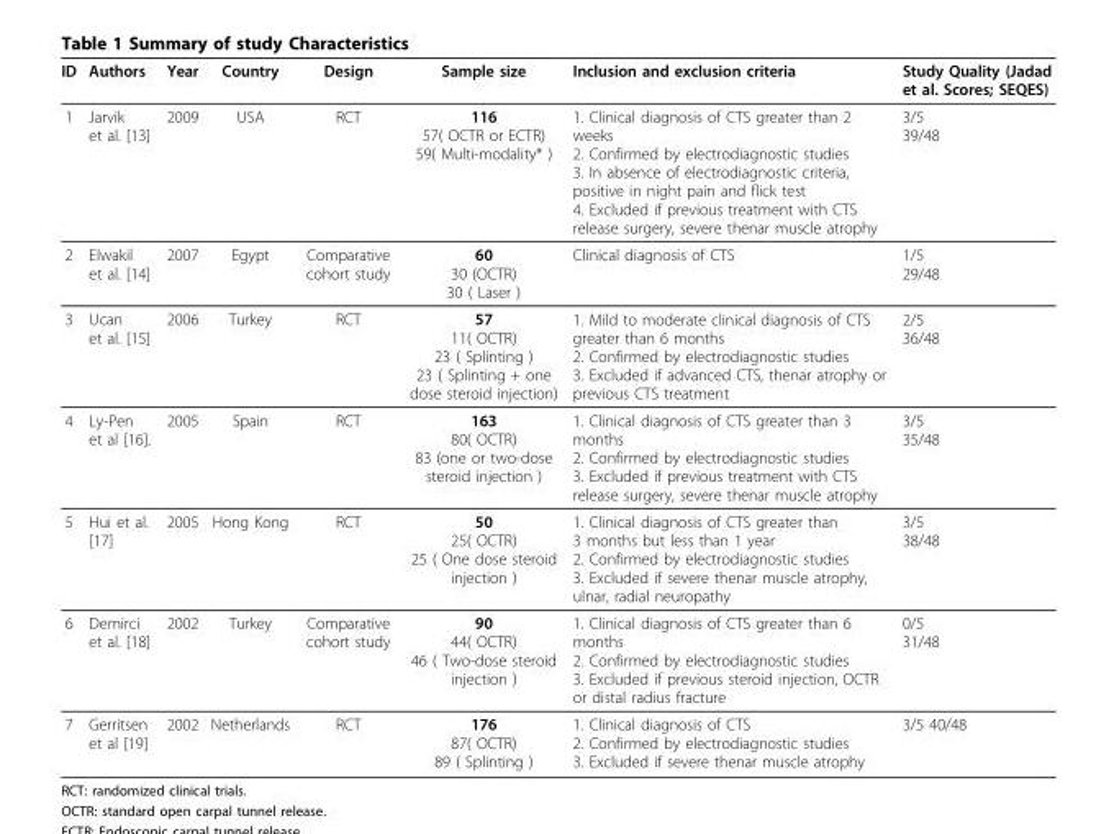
<table><thead><tr><td>ID</td><td>Authors</td><td>Year</td><td>Country</td><td>Design</td><td>Sample size</td><td>Inclusion and exclusion criteria</td><td>Study Quality (Jadad et al. Scores; SEQES)</td></tr></thead><tbody><tr><td>1</td><td>Jarvik et al. [13]</td><td>2009</td><td>USA</td><td>RCT</td><td>116 57( OCTR or ECTR) 59( Multi-modality* )</td><td>1. Clinical diagnosis of CTS greater than 2 weeks 2. Confirmed by electrodiagnostic studies 3. In absence of electrodiagnostic criteria, positive in night pain and flick test 4. Excluded if previous treatment with CTS release surgery, severe thenar muscle atrophy</td><td>3/5 39/48</td></tr><tr><td>2</td><td>Elwakil et al. [14]</td><td>2007</td><td>Egypt</td><td>Comparative cohort study</td><td>60 30 (OCTR) 30 ( Laser )</td><td>Clinical diagnosis of CTS</td><td>1/5 29/48</td></tr><tr><td>3</td><td>Ucan et al. [15]</td><td>2006</td><td>Turkey</td><td>RCT</td><td>57 11( OCTR) 23 ( Splinting ) 23 ( Splinting + one dose steroid injection)</td><td>1. Mild to moderate clinical diagnosis of CTS greater than 6 months 2. Confirmed by electrodiagnostic studies 3. Excluded if advanced CTS, thenar atrophy or previous CTS treatment</td><td>2/5 36/48</td></tr><tr><td>4</td><td>Ly-Pen et al [16].</td><td>2005</td><td>Spain</td><td>RCT</td><td>163 80( OCTR) 83 (one or two-dose steroid injection )</td><td>1. Clinical diagnosis of CTS greater than 3 months 2. Confirmed by electrodiagnostic studies 3. Excluded if previous treatment with CTS release surgery, severe thenar muscle atrophy</td><td>3/5 35/48</td></tr><tr><td>5</td><td>Hui et al. [17]</td><td>2005</td><td>Hong Kong</td><td>RCT</td><td>50 25( OCTR) 25 ( One dose steroid injection )</td><td>1. Clinical diagnosis of CTS greater than 3 months but less than 1 year 2. Confirmed by electrodiagnostic studies 3. Excluded if severe thenar muscle atrophy, ulnar, radial neuropathy</td><td>3/5 38/48</td></tr><tr><td>6</td><td>Demirci et al. [18]</td><td>2002</td><td>Turkey</td><td>Comparative cohort study</td><td>90 44( OCTR) 46 ( Two-dose steroid injection )</td><td>1. Clinical diagnosis of CTS greater than 6 months 2. Confirmed by electrodiagnostic studies 3. Excluded if previous steroid injection, OCTR or distal radius fracture</td><td>0/5 31/48</td></tr><tr><td>7</td><td>Gerritsen et al [19]</td><td>2002</td><td>Netherlands</td><td>RCT</td><td>176 87( OCTR) 89 ( Splinting )</td><td>1. Clinical diagnosis of CTS 2. Confirmed by electrodiagnostic studies 3. Excluded if severe thenar muscle atrophy</td><td>3/5 40/48</td></tr></tbody></table>